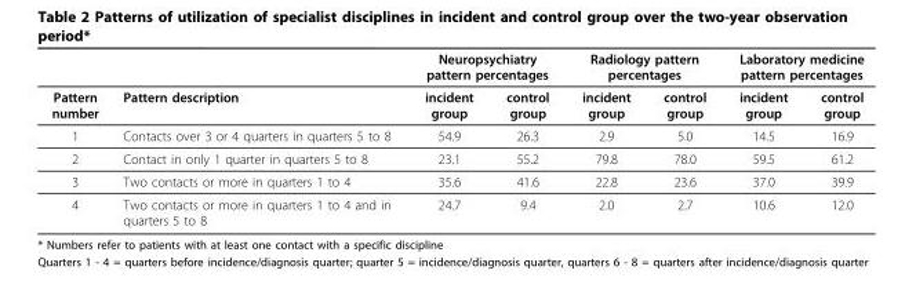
<table><thead><tr><td rowspan="2">Pattern number</td><td rowspan="2">Pattern description</td><td colspan="2">Neuropsychiatry pattern percentages</td><td colspan="2">Radiology pattern percentages</td><td colspan="2">Laboratory medicine pattern percentages</td></tr><tr><td>incident group</td><td>control group</td><td>incident group</td><td>control group</td><td>incident group</td><td>control group</td></tr></thead><tbody><tr><td>1</td><td>Contacts over 3 or 4 quarters in quarters 5 to 8</td><td>54.9</td><td>26.3</td><td>2.9</td><td>5.0</td><td>14.5</td><td>16.9</td></tr><tr><td>2</td><td>Contact in only 1 quarter in quarters 5 to 8</td><td>23.1</td><td>55.2</td><td>79.8</td><td>78.0</td><td>59.5</td><td>61.2</td></tr><tr><td>3</td><td>Two contacts or more in quarters 1 to 4</td><td>35.6</td><td>41.6</td><td>22.8</td><td>23.6</td><td>37.0</td><td>39.9</td></tr><tr><td>4</td><td>Two contacts or more in quarters 1 to 4 and in quarters 5 to 8</td><td>24.7</td><td>9.4</td><td>2.0</td><td>2.7</td><td>10.6</td><td>12.0</td></tr></tbody></table>